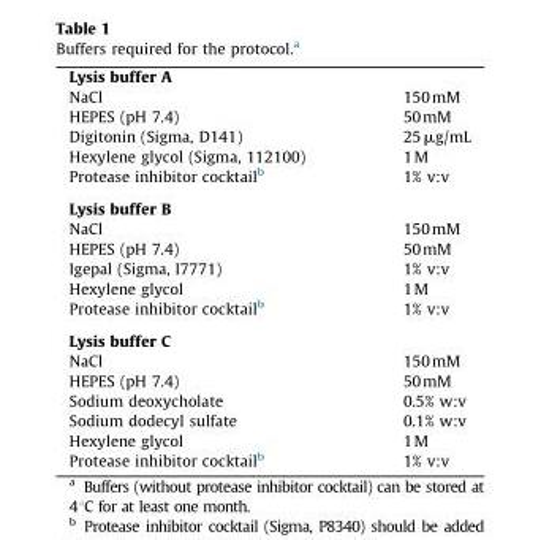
<table><tbody><tr><td colspan="2">Lysis buffer A</td></tr><tr><td>NaCl</td><td>150mM</td></tr><tr><td>HEPES (pH 7.4)</td><td>50mM</td></tr><tr><td>Digitonin (Sigma, D141)</td><td>25μg/mL</td></tr><tr><td>Hexylene glycol (Sigma, 112100)</td><td>1M</td></tr><tr><td>Protease inhibitor cocktail<sup>b</sup></td><td>1% v:v</td></tr><tr><td colspan="2">Lysis buffer B</td></tr><tr><td>NaCl</td><td>150mM</td></tr><tr><td>HEPES (pH 7.4)</td><td>50mM</td></tr><tr><td>Igepal (Sigma, I7771)</td><td>1% v:v</td></tr><tr><td>Hexylene glycol</td><td>1M</td></tr><tr><td>Protease inhibitor cocktail<sup>b</sup></td><td>1% v:v</td></tr><tr><td colspan="2">Lysis buffer C</td></tr><tr><td>NaCl</td><td>150mM</td></tr><tr><td>HEPES (pH 7.4)</td><td>50mM</td></tr><tr><td>Sodium deoxycholate</td><td>0.5% w:v</td></tr><tr><td>Sodium dodecyl sulfate</td><td>0.1% w:v</td></tr><tr><td>Hexylene glycol</td><td>1M</td></tr><tr><td>Protease inhibitor cocktail<sup>b</sup></td><td>1% v:v</td></tr></tbody></table>